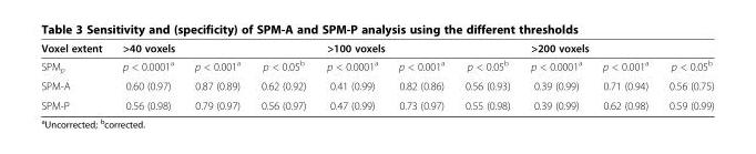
<table><thead><tr><td rowspan="2">Voxel extent SPM<sub>p</sub></td><td colspan="3">&gt;40 voxels</td><td colspan="3">&gt;100 voxels</td><td colspan="3">&gt;200 voxels</td></tr><tr><td>p &lt; 0.0001<sup>a</sup></td><td>p &lt; 0.001<sup>a</sup></td><td>p &lt; 0.05<sup>b</sup></td><td>p &lt; 0.0001<sup>a</sup></td><td>p &lt; 0.001<sup>a</sup></td><td>p &lt; 0.05<sup>b</sup></td><td>p &lt; 0.0001<sup>a</sup></td><td>p &lt; 0.001<sup>a</sup></td><td>p &lt; 0.05<sup>b</sup></td></tr></thead><tbody><tr><td>SPM-A</td><td>0.60 (0.97)</td><td>0.87 (0.89)</td><td>0.62 (0.92)</td><td>0.41 (0.99)</td><td>0.82 (0.86)</td><td>0.56 (0.93)</td><td>0.39 (0.99)</td><td>0.71 (0.94)</td><td>0.56 (0.75)</td></tr><tr><td>SPM-P</td><td>0.56 (0.98)</td><td>0.79 (0.97)</td><td>0.56 (0.97)</td><td>0.47 (0.99)</td><td>0.73 (0.97)</td><td>0.55 (0.98)</td><td>0.39 (0.99)</td><td>0.62 (0.98)</td><td>0.59 (0.99)</td></tr></tbody></table>